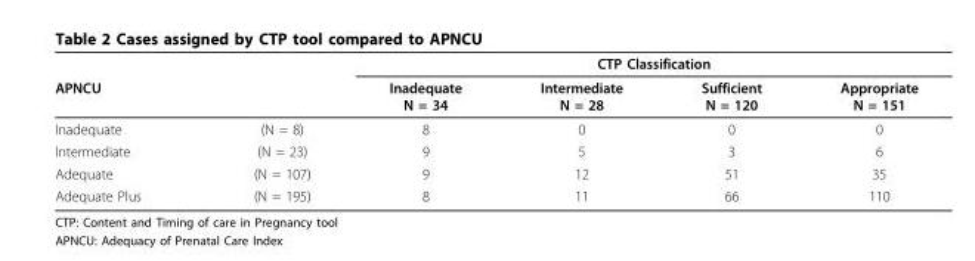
<table><thead><tr><td rowspan="2">APNCU</td><td rowspan="2"></td><td colspan="4">CTP Classification</td></tr><tr><td>Inadequate N = 34</td><td>Intermediate N = 28</td><td>Sufficient N = 120</td><td>Appropriate N = 151</td></tr></thead><tbody><tr><td>Inadequate</td><td>(N = 8)</td><td>8</td><td>0</td><td>0</td><td>0</td></tr><tr><td>Intermediate</td><td>(N = 23)</td><td>9</td><td>5</td><td>3</td><td>6</td></tr><tr><td>Adequate</td><td>(N = 107)</td><td>9</td><td>12</td><td>51</td><td>35</td></tr><tr><td>Adequate Plus</td><td>(N = 195)</td><td>8</td><td>11</td><td>66</td><td>110</td></tr></tbody></table>